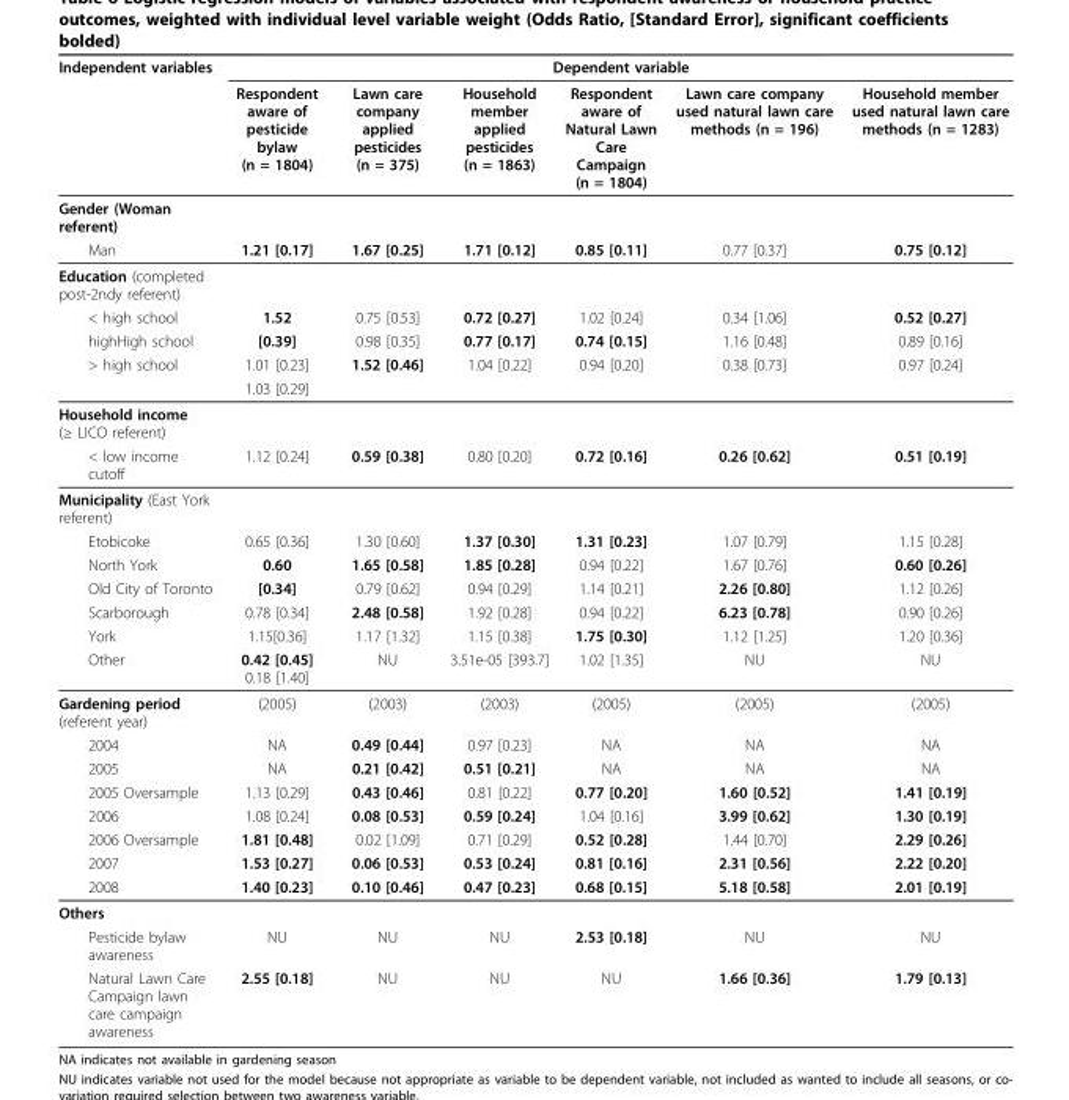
<table><thead><tr><td rowspan="2">Independent variables</td><td colspan="6">Dependent variable</td></tr><tr><td>Respondent aware of pesticide bylaw (n = 1804)</td><td>Lawn care company applied pesticides (n = 375)</td><td>Household member applied pesticides (n = 1863)</td><td>Respondent aware of Natural Lawn Care Campaign (n = 1804)</td><td>Lawn care company used natural lawn care methods (n = 196)</td><td>Household member used natural lawn care methods (n = 1283)</td></tr></thead><tbody><tr><td colspan="7">Gender (Woman referent)</td></tr><tr><td>Man</td><td>1.21 [0.17]</td><td>1.67 [0.25]</td><td>1.71 [0.12]</td><td>0.85 [0.11]</td><td>0.77 [0.37]</td><td>0.75 [0.12]</td></tr><tr><td colspan="7">Education (completed post-2ndy referent)</td></tr><tr><td>&lt; high school</td><td>1.52</td><td>0.75 [0.53]</td><td>0.72 [0.27]</td><td>1.02 [0.24]</td><td>0.34 [1.06]</td><td>0.52 [0.27]</td></tr><tr><td>highHigh school</td><td>[0.39]</td><td>0.98 [0.35]</td><td>0.77 [0.17]</td><td>0.74 [0.15]</td><td>1.16 [0.48]</td><td>0.89 [0.16]</td></tr><tr><td rowspan="2">&gt; high school</td><td>1.01 [0.23]</td><td>1.52 [0.46]</td><td>1.04 [0.22]</td><td>0.94 [0.20]</td><td>0.38 [0.73]</td><td>0.97 [0.24]</td></tr><tr><td>1.03 [0.29]</td><td></td><td></td><td></td><td></td><td></td></tr><tr><td colspan="7">Household income (≥ LICO referent)</td></tr><tr><td>&lt; low income cutoff</td><td>1.12 [0.24]</td><td>0.59 [0.38]</td><td>0.80 [0.20]</td><td>0.72 [0.16]</td><td>0.26 [0.62]</td><td>0.51 [0.19]</td></tr><tr><td colspan="7">Municipality (East York referent)</td></tr><tr><td>Etobicoke</td><td>0.65 [0.36]</td><td>1.30 [0.60]</td><td>1.37 [0.30]</td><td>1.31 [0.23]</td><td>1.07 [0.79]</td><td>1.15 [0.28]</td></tr><tr><td>North York</td><td>0.60</td><td>1.65 [0.58]</td><td>1.85 [0.28]</td><td>0.94 [0.22]</td><td>1.67 [0.76]</td><td>0.60 [0.26]</td></tr><tr><td>Old City of Toronto</td><td>[0.34]</td><td>0.79 [0.62]</td><td>0.94 [0.29]</td><td>1.14 [0.21]</td><td>2.26 [0.80]</td><td>1.12 [0.26]</td></tr><tr><td>Scarborough</td><td>0.78 [0.34]</td><td>2.48 [0.58]</td><td>1.92 [0.28]</td><td>0.94 [0.22]</td><td>6.23 [0.78]</td><td>0.90 [0.26]</td></tr><tr><td>York</td><td>1.15[0.36]</td><td>1.17 [1.32]</td><td>1.15 [0.38]</td><td>1.75 [0.30]</td><td>1.12 [1.25]</td><td>1.20 [0.36]</td></tr><tr><td>Other</td><td>0.42 [0.45] 0.18 [1.40]</td><td>NU</td><td>3.51e-05 [393.7]</td><td>1.02 [1.35]</td><td>NU</td><td>NU</td></tr><tr><td>Gardening period (referent year)</td><td>(2005)</td><td>(2003)</td><td>(2003)</td><td>(2005)</td><td>(2005)</td><td>(2005)</td></tr><tr><td>2004</td><td>NA</td><td>0.49 [0.44]</td><td>0.97 [0.23]</td><td>NA</td><td>NA</td><td>NA</td></tr><tr><td>2005</td><td>NA</td><td>0.21 [0.42]</td><td>0.51 [0.21]</td><td>NA</td><td>NA</td><td>NA</td></tr><tr><td>2005 Oversample</td><td>1.13 [0.29]</td><td>0.43 [0.46]</td><td>0.81 [0.22]</td><td>0.77 [0.20]</td><td>1.60 [0.52]</td><td>1.41 [0.19]</td></tr><tr><td>2006</td><td>1.08 [0.24]</td><td>0.08 [0.53]</td><td>0.59 [0.24]</td><td>1.04 [0.16]</td><td>3.99 [0.62]</td><td>1.30 [0.19]</td></tr><tr><td>2006 Oversample</td><td>1.81 [0.48]</td><td>0.02 [1.09]</td><td>0.71 [0.29]</td><td>0.52 [0.28]</td><td>1.44 [0.70]</td><td>2.29 [0.26]</td></tr><tr><td>2007</td><td>1.53 [0.27]</td><td>0.06 [0.53]</td><td>0.53 [0.24]</td><td>0.81 [0.16]</td><td>2.31 [0.56]</td><td>2.22 [0.20]</td></tr><tr><td>2008</td><td>1.40 [0.23]</td><td>0.10 [0.46]</td><td>0.47 [0.23]</td><td>0.68 [0.15]</td><td>5.18 [0.58]</td><td>2.01 [0.19]</td></tr><tr><td colspan="7">Others</td></tr><tr><td>Pesticide bylaw awareness</td><td>NU</td><td>NU</td><td>NU</td><td>2.53 [0.18]</td><td>NU</td><td>NU</td></tr><tr><td>Natural Lawn Care Campaign lawn care campaign awareness</td><td>2.55 [0.18]</td><td>NU</td><td>NU</td><td>NU</td><td>1.66 [0.36]</td><td>1.79 [0.13]</td></tr></tbody></table>